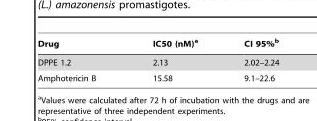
<table><thead><tr><td>Drug</td><td>IC50 (nM)<sup>a</sup></td><td>CI 95%<sup>b</sup></td></tr></thead><tbody><tr><td>DPPE 1.2</td><td>2.13</td><td>2.02–2.24</td></tr><tr><td>Amphotericin B</td><td>15.58</td><td>9.1–22.6</td></tr></tbody></table>